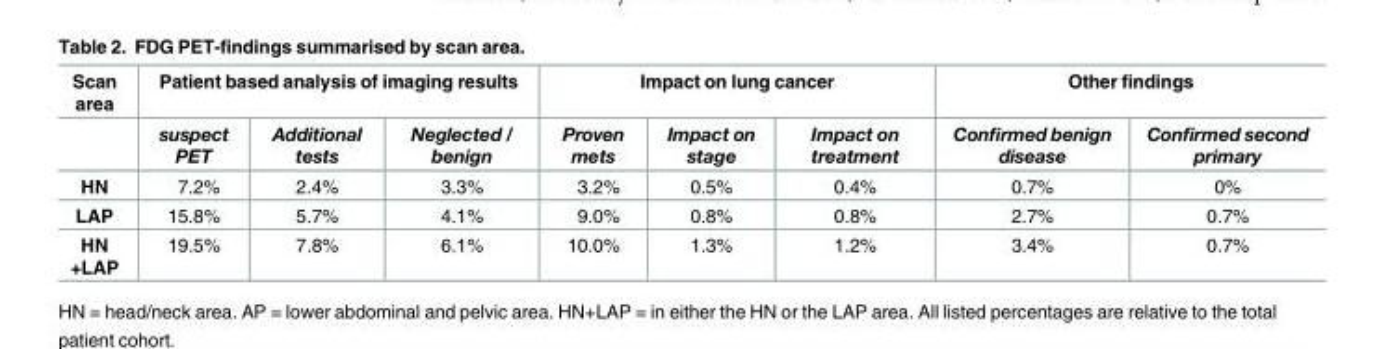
<table><thead><tr><td rowspan="2">Scan area</td><td colspan="3">Patient based analysis of imaging results</td><td colspan="3">Impact on lung cancer</td><td colspan="2">Other findings</td></tr><tr><td>suspect PET</td><td>Additional tests</td><td>Neglected / benign</td><td>Proven mets</td><td>Impact on stage</td><td>Impact on treatment</td><td>Confirmed benign disease</td><td>Confirmed second primary</td></tr></thead><tbody><tr><td>HN</td><td>7.2%</td><td>2.4%</td><td>3.3%</td><td>3.2%</td><td>0.5%</td><td>0.4%</td><td>0.7%</td><td>0%</td></tr><tr><td>LAP</td><td>15.8%</td><td>5.7%</td><td>4.1%</td><td>9.0%</td><td>0.8%</td><td>0.8%</td><td>2.7%</td><td>0.7%</td></tr><tr><td>HN +LAP</td><td>19.5%</td><td>7.8%</td><td>6.1%</td><td>10.0%</td><td>1.3%</td><td>1.2%</td><td>3.4%</td><td>0.7%</td></tr></tbody></table>